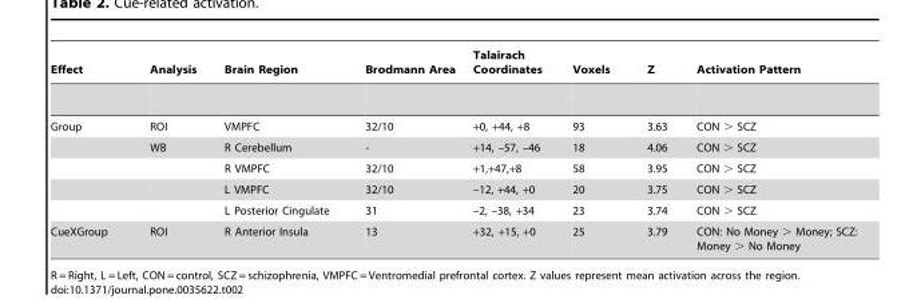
<table><thead><tr><td>Effect</td><td>Analysis</td><td>Brain Region</td><td>Brodmann Area</td><td>Talairach Coordinates</td><td>Voxels</td><td>Z</td><td>Activation Pattern</td></tr></thead><tbody><tr><td rowspan="5">Group</td><td>ROI</td><td>VMPFC</td><td>32/10</td><td>+0, +44, +8</td><td>93</td><td>3.63</td><td>CON &gt; SCZ</td></tr><tr><td>WB</td><td>R Cerebellum</td><td>-</td><td>+14, –57, –46</td><td>18</td><td>4.06</td><td>CON &gt; SCZ</td></tr><tr><td></td><td>R VMPFC</td><td>32/10</td><td>+1,+47,+8</td><td>58</td><td>3.95</td><td>CON &gt; SCZ</td></tr><tr><td></td><td>L VMPFC</td><td>32/10</td><td>–12, +44, +0</td><td>20</td><td>3.75</td><td>CON &gt; SCZ</td></tr><tr><td></td><td>L Posterior Cingulate</td><td>31</td><td>–2, –38, +34</td><td>23</td><td>3.74</td><td>CON &gt; SCZ</td></tr><tr><td>CueXGroup</td><td>ROI</td><td>R Anterior Insula</td><td>13</td><td>+32, +15, +0</td><td>25</td><td>3.79</td><td>CON: No Money &gt; Money; SCZ: Money &gt; No Money</td></tr></tbody></table>